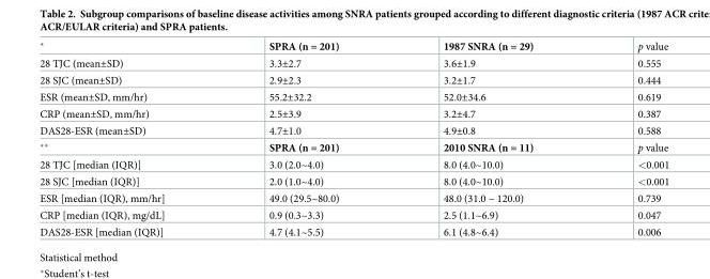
<table><tbody><tr><td>*</td><td>SPRA (n = 201)</td><td>1987 SNRA (n = 29)</td><td>p value</td></tr><tr><td>28 TJC (mean±SD)</td><td>3.3±2.7</td><td>3.6±1.9</td><td>0.555</td></tr><tr><td>28 SJC (mean±SD)</td><td>2.9±2.3</td><td>3.2±1.7</td><td>0.444</td></tr><tr><td>ESR (mean±SD, mm/hr)</td><td>55.2±32.2</td><td>52.0±34.6</td><td>0.619</td></tr><tr><td>CRP (mean±SD, mm/hr)</td><td>2.5±3.9</td><td>3.2±4.7</td><td>0.387</td></tr><tr><td>DAS28-ESR (mean±SD)</td><td>4.7±1.0</td><td>4.9±0.8</td><td>0.588</td></tr><tr><td>**</td><td>SPRA (n = 201)</td><td>2010 SNRA (n = 11)</td><td>p value</td></tr><tr><td>28 TJC [median (IQR)]</td><td>3.0 (2.0~4.0)</td><td>8.0 (4.0~10.0)</td><td>&lt;0.001</td></tr><tr><td>28 SJC [median (IQR)]</td><td>2.0 (1.0~4.0)</td><td>8.0 (4.0~10.0)</td><td>&lt;0.001</td></tr><tr><td>ESR [median (IQR), mm/hr]</td><td>49.0 (29.5~80.0)</td><td>48.0 (31.0 ~ 120.0)</td><td>0.739</td></tr><tr><td>CRP [median (IQR), mg/dL]</td><td>0.9 (0.3~3.3)</td><td>2.5 (1.1~6.9)</td><td>0.047</td></tr><tr><td>DAS28-ESR [median (IQR)]</td><td>4.7 (4.1~5.5)</td><td>6.1 (4.8~6.4)</td><td>0.006</td></tr></tbody></table>